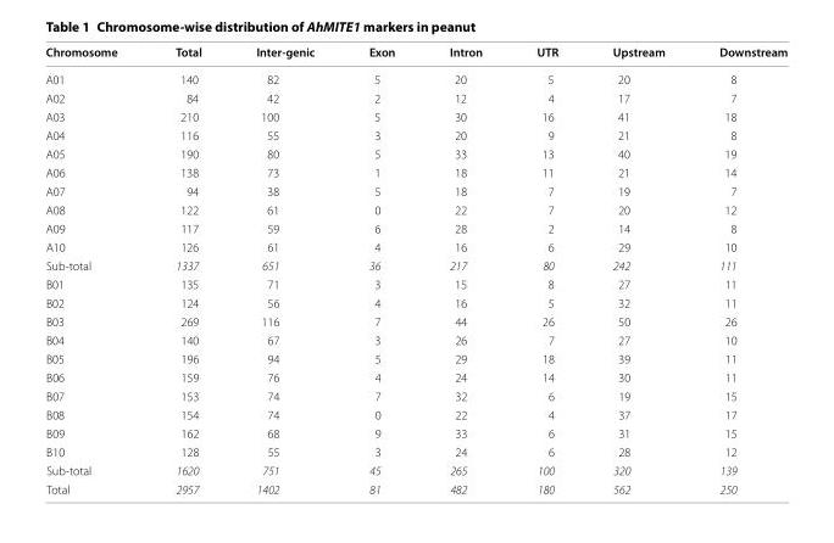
<table><thead><tr><td>Chromosome</td><td>Total</td><td>Inter-genic</td><td>Exon</td><td>Intron</td><td>UTR</td><td>Upstream</td><td>Downstream</td></tr></thead><tbody><tr><td>A01</td><td>140</td><td>82</td><td>5</td><td>20</td><td>5</td><td>20</td><td>8</td></tr><tr><td>A02</td><td>84</td><td>42</td><td>2</td><td>12</td><td>4</td><td>17</td><td>7</td></tr><tr><td>A03</td><td>210</td><td>100</td><td>5</td><td>30</td><td>16</td><td>41</td><td>18</td></tr><tr><td>A04</td><td>116</td><td>55</td><td>3</td><td>20</td><td>9</td><td>21</td><td>8</td></tr><tr><td>A05</td><td>190</td><td>80</td><td>5</td><td>33</td><td>13</td><td>40</td><td>19</td></tr><tr><td>A06</td><td>138</td><td>73</td><td>1</td><td>18</td><td>11</td><td>21</td><td>14</td></tr><tr><td>A07</td><td>94</td><td>38</td><td>5</td><td>18</td><td>7</td><td>19</td><td>7</td></tr><tr><td>A08</td><td>122</td><td>61</td><td>0</td><td>22</td><td>7</td><td>20</td><td>12</td></tr><tr><td>A09</td><td>117</td><td>59</td><td>6</td><td>28</td><td>2</td><td>14</td><td>8</td></tr><tr><td>A10</td><td>126</td><td>61</td><td>4</td><td>16</td><td>6</td><td>29</td><td>10</td></tr><tr><td>Sub-total</td><td>1337</td><td>651</td><td>36</td><td>217</td><td>80</td><td>242</td><td>111</td></tr><tr><td>B01</td><td>135</td><td>71</td><td>3</td><td>15</td><td>8</td><td>27</td><td>11</td></tr><tr><td>B02</td><td>124</td><td>56</td><td>4</td><td>16</td><td>5</td><td>32</td><td>11</td></tr><tr><td>B03</td><td>269</td><td>116</td><td>7</td><td>44</td><td>26</td><td>50</td><td>26</td></tr><tr><td>B04</td><td>140</td><td>67</td><td>3</td><td>26</td><td>7</td><td>27</td><td>10</td></tr><tr><td>B05</td><td>196</td><td>94</td><td>5</td><td>29</td><td>18</td><td>39</td><td>11</td></tr><tr><td>B06</td><td>159</td><td>76</td><td>4</td><td>24</td><td>14</td><td>30</td><td>11</td></tr><tr><td>B07</td><td>153</td><td>74</td><td>7</td><td>32</td><td>6</td><td>19</td><td>15</td></tr><tr><td>B08</td><td>154</td><td>74</td><td>0</td><td>22</td><td>4</td><td>37</td><td>17</td></tr><tr><td>B09</td><td>162</td><td>68</td><td>9</td><td>33</td><td>6</td><td>31</td><td>15</td></tr><tr><td>B10</td><td>128</td><td>55</td><td>3</td><td>24</td><td>6</td><td>28</td><td>12</td></tr><tr><td>Sub-total</td><td>1620</td><td>751</td><td>45</td><td>265</td><td>100</td><td>320</td><td>139</td></tr><tr><td>Total</td><td>2957</td><td>1402</td><td>81</td><td>482</td><td>180</td><td>562</td><td>250</td></tr></tbody></table>